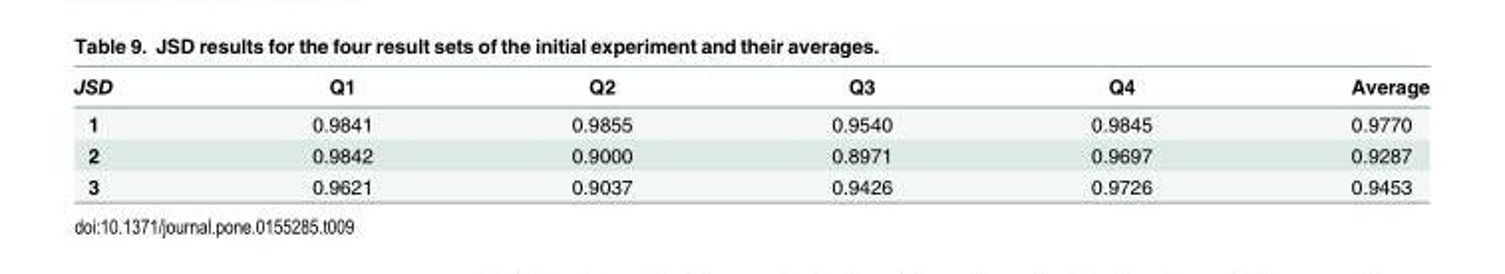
<table><thead><tr><td>JSD</td><td>Q1</td><td>Q2</td><td>Q3</td><td>Q4</td><td>Average</td></tr></thead><tbody><tr><td>1</td><td>0.9841</td><td>0.9855</td><td>0.9540</td><td>0.9845</td><td>0.9770</td></tr><tr><td>2</td><td>0.9842</td><td>0.9000</td><td>0.8971</td><td>0.9697</td><td>0.9287</td></tr><tr><td>3</td><td>0.9621</td><td>0.9037</td><td>0.9426</td><td>0.9726</td><td>0.9453</td></tr></tbody></table>